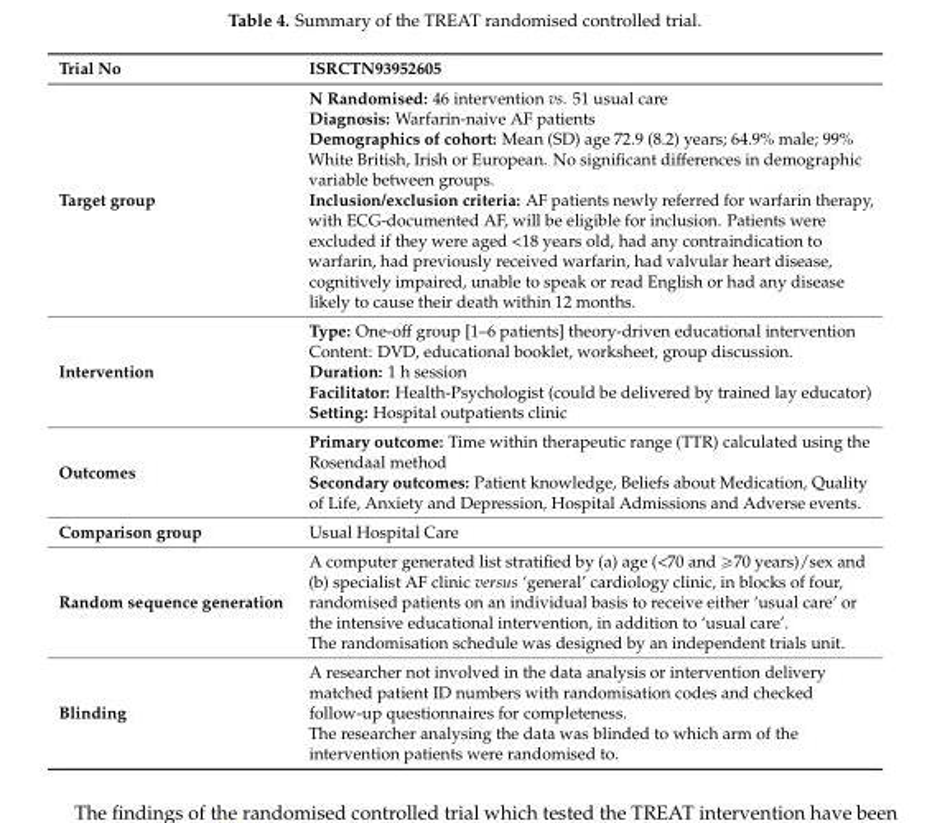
<table><thead><tr><td>Trial No</td><td>ISRCTN93952605</td></tr></thead><tbody><tr><td>Target group</td><td>N Randomised: 46 intervention vs. 51 usual care Diagnosis: Warfarin-naive AF patients Demographics of cohort: Mean (SD) age 72.9 (8.2) years; 64.9% male; 99% White British, Irish or European. No significant differences in demographic variable between groups. Inclusion/exclusion criteria: AF patients newly referred for warfarin therapy, with ECG-documented AF, will be eligible for inclusion. Patients were excluded if they were aged &lt;18 years old, had any contraindication to warfarin, had previously received warfarin, had valvular heart disease, cognitively impaired, unable to speak or read English or had any disease likely to cause their death within 12 months.</td></tr><tr><td>Intervention</td><td>Type: One-off group [1–6 patients] theory-driven educational intervention Content: DVD, educational booklet, worksheet, group discussion. Duration: 1 h session Facilitator: Health-Psychologist (could be delivered by trained lay educator) Setting: Hospital outpatients clinic</td></tr><tr><td>Outcomes</td><td>Primary outcome: Time within therapeutic range (TTR) calculated using the Rosendaal method Secondary outcomes: Patient knowledge, Beliefs about Medication, Quality of Life, Anxiety and Depression, Hospital Admissions and Adverse events.</td></tr><tr><td>Comparison group</td><td>Usual Hospital Care</td></tr><tr><td>Random sequence generation</td><td>A computer generated list stratified by (a) age (&lt;70 and ě70 years)/sex and (b) specialist AF clinic versus ‘general’ cardiology clinic, in blocks of four, randomised patients on an individual basis to receive either ‘usual care’ or the intensive educational intervention, in addition to ‘usual care’. The randomisation schedule was designed by an independent trials unit.</td></tr><tr><td>Blinding</td><td>A researcher not involved in the data analysis or intervention delivery matched patient ID numbers with randomisation codes and checked follow-up questionnaires for completeness. The researcher analysing the data was blinded to which arm of the intervention patients were randomised to.</td></tr></tbody></table>